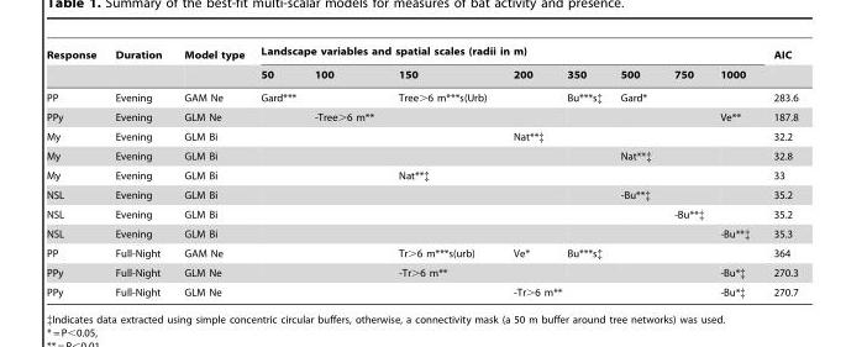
<table><thead><tr><td rowspan="2">Response</td><td rowspan="2">Duration</td><td rowspan="2">Model type</td><td colspan="8">Landscape variables and spatial scales (radii in m)</td><td rowspan="2">AIC</td></tr><tr><td>50</td><td>100</td><td>150</td><td>200</td><td>350</td><td>500</td><td>750</td><td>1000</td></tr></thead><tbody><tr><td>PP</td><td>Evening</td><td>GAM Ne</td><td>Gard***</td><td></td><td>Tree&gt;6 m***s(Urb)</td><td></td><td>Bu***s‡</td><td>Gard*</td><td></td><td></td><td>283.6</td></tr><tr><td>PPy</td><td>Evening</td><td>GLM Ne</td><td></td><td>-Tree&gt;6 m**</td><td></td><td></td><td></td><td></td><td></td><td>Ve**</td><td>187.8</td></tr><tr><td>My</td><td>Evening</td><td>GLM Bi</td><td></td><td></td><td></td><td>Nat**‡</td><td></td><td></td><td></td><td></td><td>32.2</td></tr><tr><td>My</td><td>Evening</td><td>GLM Bi</td><td></td><td></td><td></td><td></td><td></td><td>Nat**‡</td><td></td><td></td><td>32.8</td></tr><tr><td>My</td><td>Evening</td><td>GLM Bi</td><td></td><td></td><td>Nat**‡</td><td></td><td></td><td></td><td></td><td></td><td>33</td></tr><tr><td>NSL</td><td>Evening</td><td>GLM Bi</td><td></td><td></td><td></td><td></td><td></td><td>-Bu**‡</td><td></td><td></td><td>35.2</td></tr><tr><td>NSL</td><td>Evening</td><td>GLM Bi</td><td></td><td></td><td></td><td></td><td></td><td></td><td>-Bu**‡</td><td></td><td>35.2</td></tr><tr><td>NSL</td><td>Evening</td><td>GLM Bi</td><td></td><td></td><td></td><td></td><td></td><td></td><td></td><td>-Bu**‡</td><td>35.3</td></tr><tr><td>PP</td><td>Full-Night</td><td>GAM Ne</td><td></td><td></td><td>Tr&gt;6 m***s(urb)</td><td>Ve*</td><td>Bu***s‡</td><td></td><td></td><td></td><td>364</td></tr><tr><td>PPy</td><td>Full-Night</td><td>GLM Ne</td><td></td><td></td><td>-Tr&gt;6 m**</td><td></td><td></td><td></td><td></td><td>-Bu*‡</td><td>270.3</td></tr><tr><td>PPy</td><td>Full-Night</td><td>GLM Ne</td><td></td><td></td><td></td><td colspan="2">-Tr&gt;6 m**</td><td></td><td></td><td>-Bu*‡</td><td>270.7</td></tr></tbody></table>